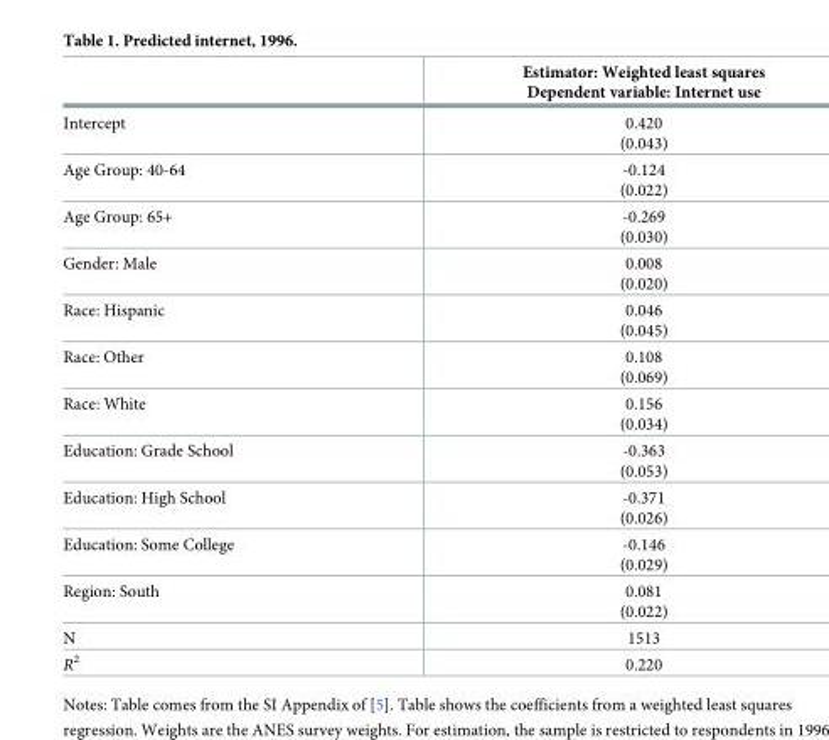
<table><thead><tr><td></td><td>Estimator: Weighted least squares Dependent variable: Internet use</td></tr></thead><tbody><tr><td>Intercept</td><td>0.420 (0.043)</td></tr><tr><td>Age Group: 40-64</td><td>-0.124 (0.022)</td></tr><tr><td>Age Group: 65+</td><td>-0.269 (0.030)</td></tr><tr><td>Gender: Male</td><td>0.008 (0.020)</td></tr><tr><td>Race: Hispanic</td><td>0.046 (0.045)</td></tr><tr><td>Race: Other</td><td>0.108 (0.069)</td></tr><tr><td>Race: White</td><td>0.156 (0.034)</td></tr><tr><td>Education: Grade School</td><td>-0.363 (0.053)</td></tr><tr><td>Education: High School</td><td>-0.371 (0.026)</td></tr><tr><td>Education: Some College</td><td>-0.146 (0.029)</td></tr><tr><td>Region: South</td><td>0.081 (0.022)</td></tr><tr><td>N</td><td>1513</td></tr><tr><td>R<sup>2</sup></td><td>0.220</td></tr></tbody></table>